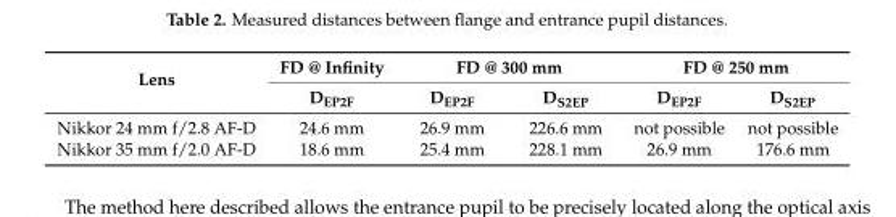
<table><thead><tr><td rowspan="2">Lens</td><td rowspan="2">FD @ Infinity D<sub>EP2F</sub></td><td colspan="2">FD @ 300 mm</td><td colspan="2">FD @ 250 mm</td></tr><tr><td>D<sub>EP2F</sub></td><td>D<sub>S2EP</sub></td><td>D<sub>EP2F</sub></td><td>D<sub>S2EP</sub></td></tr></thead><tbody><tr><td>Nikkor 24 mm f/2.8 AF-D</td><td>24.6 mm</td><td>26.9 mm</td><td>226.6 mm</td><td>not possible</td><td>not possible</td></tr><tr><td>Nikkor 35 mm f/2.0 AF-D</td><td>18.6 mm</td><td>25.4 mm</td><td>228.1 mm</td><td>26.9 mm</td><td>176.6 mm</td></tr></tbody></table>